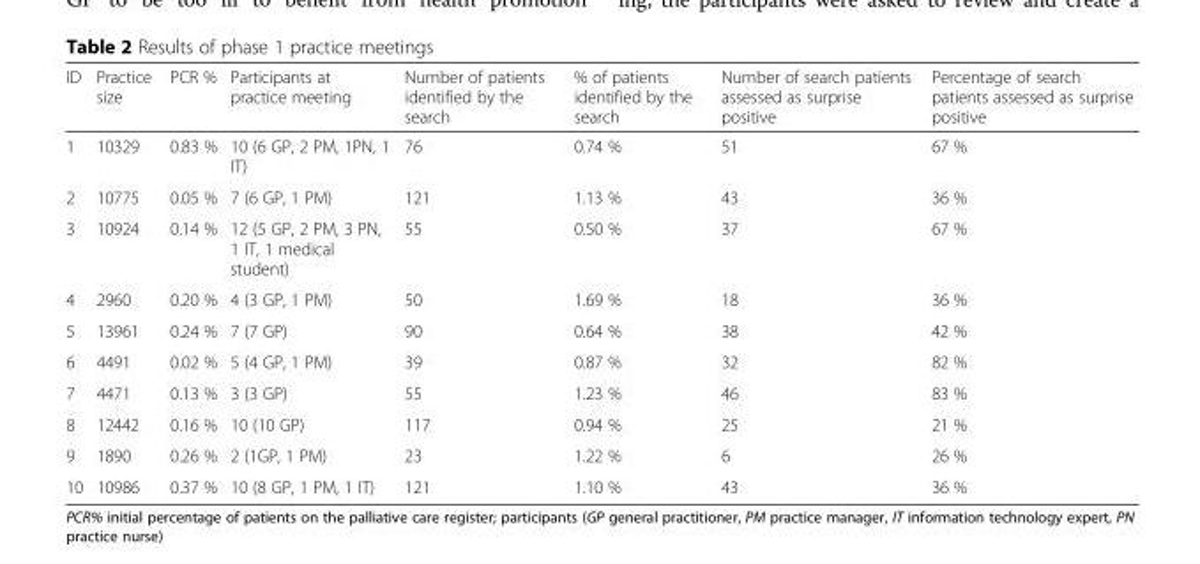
<table><thead><tr><td>ID</td><td>Practice size</td><td>PCR %</td><td>Participants at practice meeting</td><td>Number of patients identified by the search</td><td>% of patients identified by the search</td><td>Number of search patients assessed as surprise positive</td><td>Percentage of search patients assessed as surprise positive</td></tr></thead><tbody><tr><td>1</td><td>10329</td><td>0.83 %</td><td>10 (6 GP, 2 PM, 1PN, 1 IT)</td><td>76</td><td>0.74 %</td><td>51</td><td>67 %</td></tr><tr><td>2</td><td>10775</td><td>0.05 %</td><td>7 (6 GP, 1 PM)</td><td>121</td><td>1.13 %</td><td>43</td><td>36 %</td></tr><tr><td>3</td><td>10924</td><td>0.14 %</td><td>12 (5 GP, 2 PM, 3 PN, 1 IT, 1 medical student)</td><td>55</td><td>0.50 %</td><td>37</td><td>67 %</td></tr><tr><td>4</td><td>2960</td><td>0.20 %</td><td>4 (3 GP, 1 PM)</td><td>50</td><td>1.69 %</td><td>18</td><td>36 %</td></tr><tr><td>5</td><td>13961</td><td>0.24 %</td><td>7 (7 GP)</td><td>90</td><td>0.64 %</td><td>38</td><td>42 %</td></tr><tr><td>6</td><td>4491</td><td>0.02 %</td><td>5 (4 GP, 1 PM)</td><td>39</td><td>0.87 %</td><td>32</td><td>82 %</td></tr><tr><td>7</td><td>4471</td><td>0.13 %</td><td>3 (3 GP)</td><td>55</td><td>1.23 %</td><td>46</td><td>83 %</td></tr><tr><td>8</td><td>12442</td><td>0.16 %</td><td>10 (10 GP)</td><td>117</td><td>0.94 %</td><td>25</td><td>21 %</td></tr><tr><td>9</td><td>1890</td><td>0.26 %</td><td>2 (1GP, 1 PM)</td><td>23</td><td>1.22 %</td><td>6</td><td>26 %</td></tr><tr><td>10</td><td>10986</td><td>0.37 %</td><td>10 (8 GP, 1 PM, 1 IT)</td><td>121</td><td>1.10 %</td><td>43</td><td>36 %</td></tr></tbody></table>